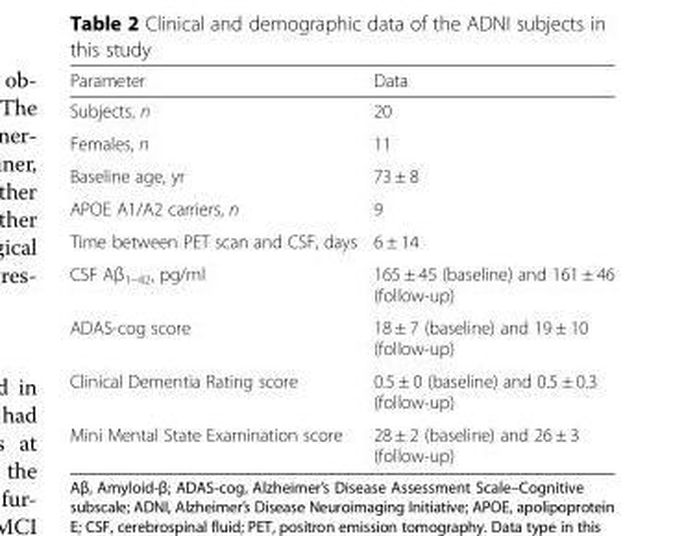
<table><thead><tr><td>Parameter</td><td>Data</td></tr></thead><tbody><tr><td>Subjects, n</td><td>20</td></tr><tr><td>Females, n</td><td>11</td></tr><tr><td>Baseline age, yr</td><td>73 ± 8</td></tr><tr><td>APOE A1/A2 carriers, n</td><td>9</td></tr><tr><td>Time between PET scan and CSF, days</td><td>6 ± 14</td></tr><tr><td>CSF Aβ<sub>1–42</sub>, pg/ml</td><td>165 ± 45 (baseline) and 161 ± 46 (follow-up)</td></tr><tr><td>ADAS-cog score</td><td>18 ± 7 (baseline) and 19 ± 10 (follow-up)</td></tr><tr><td>Clinical Dementia Rating score</td><td>0.5 ± 0 (baseline) and 0.5 ± 0.3 (follow-up)</td></tr><tr><td>Mini Mental State Examination score</td><td>28 ± 2 (baseline) and 26 ± 3 (follow-up)</td></tr></tbody></table>